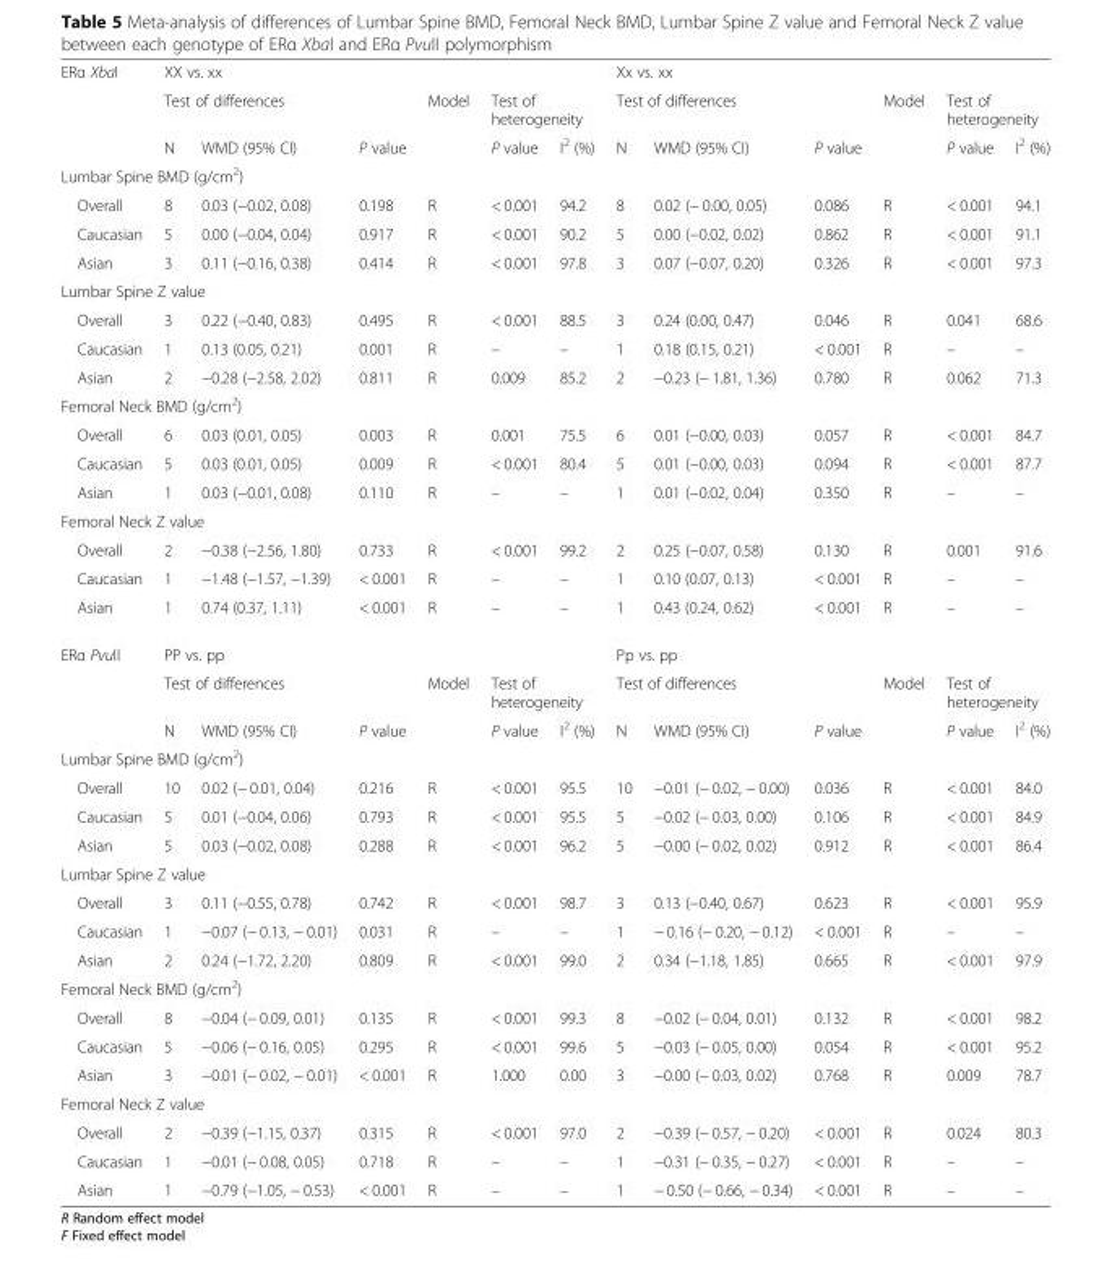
<table><tbody><tr><td rowspan="3">ERα XbaI</td><td colspan="6">XX vs. xx</td><td colspan="6">Xx vs. xx</td></tr><tr><td colspan="3">Test of differences</td><td rowspan="2">Model</td><td colspan="2">Test of heterogeneity</td><td colspan="3">Test of differences</td><td rowspan="2">Model</td><td colspan="2">Test of heterogeneity</td></tr><tr><td>N</td><td>WMD (95% CI)</td><td>P value</td><td>P value</td><td>I<sup>2</sup> (%)</td><td>N</td><td>WMD (95% CI)</td><td>P value</td><td>P value</td><td>I<sup>2</sup> (%)</td></tr><tr><td colspan="13">Lumbar Spine BMD (g/cm<sup>2</sup>)</td></tr><tr><td>Overall</td><td>8</td><td>0.03 (−0.02, 0.08)</td><td>0.198</td><td>R</td><td>&lt; 0.001</td><td>94.2</td><td>8</td><td>0.02 (− 0.00, 0.05)</td><td>0.086</td><td>R</td><td>&lt; 0.001</td><td>94.1</td></tr><tr><td>Caucasian</td><td>5</td><td>0.00 (−0.04, 0.04)</td><td>0.917</td><td>R</td><td>&lt; 0.001</td><td>90.2</td><td>5</td><td>0.00 (−0.02, 0.02)</td><td>0.862</td><td>R</td><td>&lt; 0.001</td><td>91.1</td></tr><tr><td>Asian</td><td>3</td><td>0.11 (−0.16, 0.38)</td><td>0.414</td><td>R</td><td>&lt; 0.001</td><td>97.8</td><td>3</td><td>0.07 (−0.07, 0.20)</td><td>0.326</td><td>R</td><td>&lt; 0.001</td><td>97.3</td></tr><tr><td colspan="13">Lumbar Spine Z value</td></tr><tr><td>Overall</td><td>3</td><td>0.22 (−0.40, 0.83)</td><td>0.495</td><td>R</td><td>&lt; 0.001</td><td>88.5</td><td>3</td><td>0.24 (0.00, 0.47)</td><td>0.046</td><td>R</td><td>0.041</td><td>68.6</td></tr><tr><td>Caucasian</td><td>1</td><td>0.13 (0.05, 0.21)</td><td>0.001</td><td>R</td><td>–</td><td>–</td><td>1</td><td>0.18 (0.15, 0.21)</td><td>&lt; 0.001</td><td>R</td><td>–</td><td>–</td></tr><tr><td>Asian</td><td>2</td><td>−0.28 (−2.58, 2.02)</td><td>0.811</td><td>R</td><td>0.009</td><td>85.2</td><td>2</td><td>−0.23 (− 1.81, 1.36)</td><td>0.780</td><td>R</td><td>0.062</td><td>71.3</td></tr><tr><td colspan="13">Femoral Neck BMD (g/cm<sup>2</sup>)</td></tr><tr><td>Overall</td><td>6</td><td>0.03 (0.01, 0.05)</td><td>0.003</td><td>R</td><td>0.001</td><td>75.5</td><td>6</td><td>0.01 (−0.00, 0.03)</td><td>0.057</td><td>R</td><td>&lt; 0.001</td><td>84.7</td></tr><tr><td>Caucasian</td><td>5</td><td>0.03 (0.01, 0.05)</td><td>0.009</td><td>R</td><td>&lt; 0.001</td><td>80.4</td><td>5</td><td>0.01 (−0.00, 0.03)</td><td>0.094</td><td>R</td><td>&lt; 0.001</td><td>87.7</td></tr><tr><td>Asian</td><td>1</td><td>0.03 (−0.01, 0.08)</td><td>0.110</td><td>R</td><td>–</td><td>–</td><td>1</td><td>0.01 (−0.02, 0.04)</td><td>0.350</td><td>R</td><td>–</td><td>–</td></tr><tr><td colspan="13">Femoral Neck Z value</td></tr><tr><td>Overall</td><td>2</td><td>−0.38 (−2.56, 1.80)</td><td>0.733</td><td>R</td><td>&lt; 0.001</td><td>99.2</td><td>2</td><td>0.25 (−0.07, 0.58)</td><td>0.130</td><td>R</td><td>0.001</td><td>91.6</td></tr><tr><td>Caucasian</td><td>1</td><td>−1.48 (−1.57, −1.39)</td><td>&lt; 0.001</td><td>R</td><td>–</td><td>–</td><td>1</td><td>0.10 (0.07, 0.13)</td><td>&lt; 0.001</td><td>R</td><td>–</td><td>–</td></tr><tr><td>Asian</td><td>1</td><td>0.74 (0.37, 1.11)</td><td>&lt; 0.001</td><td>R</td><td>–</td><td>–</td><td>1</td><td>0.43 (0.24, 0.62)</td><td>&lt; 0.001</td><td>R</td><td>–</td><td>–</td></tr><tr><td rowspan="3">ERα PvuII</td><td colspan="6">PP vs. pp</td><td colspan="6">Pp vs. pp</td></tr><tr><td colspan="3">Test of differences</td><td rowspan="2">Model</td><td colspan="2">Test of heterogeneity</td><td colspan="3">Test of differences</td><td rowspan="2">Model</td><td colspan="2">Test of heterogeneity</td></tr><tr><td>N</td><td>WMD (95% CI)</td><td>P value</td><td>P value</td><td>I<sup>2</sup> (%)</td><td>N</td><td>WMD (95% CI)</td><td>P value</td><td>P value</td><td>I<sup>2</sup> (%)</td></tr><tr><td colspan="13">Lumbar Spine BMD (g/cm<sup>2</sup>)</td></tr><tr><td>Overall</td><td>10</td><td>0.02 (− 0.01, 0.04)</td><td>0.216</td><td>R</td><td>&lt; 0.001</td><td>95.5</td><td>10</td><td>−0.01 (− 0.02, − 0.00)</td><td>0.036</td><td>R</td><td>&lt; 0.001</td><td>84.0</td></tr><tr><td>Caucasian</td><td>5</td><td>0.01 (−0.04, 0.06)</td><td>0.793</td><td>R</td><td>&lt; 0.001</td><td>95.5</td><td>5</td><td>−0.02 (− 0.03, 0.00)</td><td>0.106</td><td>R</td><td>&lt; 0.001</td><td>84.9</td></tr><tr><td>Asian</td><td>5</td><td>0.03 (−0.02, 0.08)</td><td>0.288</td><td>R</td><td>&lt; 0.001</td><td>96.2</td><td>5</td><td>−0.00 (− 0.02, 0.02)</td><td>0.912</td><td>R</td><td>&lt; 0.001</td><td>86.4</td></tr><tr><td colspan="13">Lumbar Spine Z value</td></tr><tr><td>Overall</td><td>3</td><td>0.11 (−0.55, 0.78)</td><td>0.742</td><td>R</td><td>&lt; 0.001</td><td>98.7</td><td>3</td><td>0.13 (−0.40, 0.67)</td><td>0.623</td><td>R</td><td>&lt; 0.001</td><td>95.9</td></tr><tr><td>Caucasian</td><td>1</td><td>−0.07 (− 0.13, − 0.01)</td><td>0.031</td><td>R</td><td>–</td><td>–</td><td>1</td><td>− 0.16 (− 0.20, − 0.12)</td><td>&lt; 0.001</td><td>R</td><td>–</td><td>–</td></tr><tr><td>Asian</td><td>2</td><td>0.24 (−1.72, 2.20)</td><td>0.809</td><td>R</td><td>&lt; 0.001</td><td>99.0</td><td>2</td><td>0.34 (−1.18, 1.85)</td><td>0.665</td><td>R</td><td>&lt; 0.001</td><td>97.9</td></tr><tr><td colspan="13">Femoral Neck BMD (g/cm<sup>2</sup>)</td></tr><tr><td>Overall</td><td>8</td><td>−0.04 (− 0.09, 0.01)</td><td>0.135</td><td>R</td><td>&lt; 0.001</td><td>99.3</td><td>8</td><td>−0.02 (− 0.04, 0.01)</td><td>0.132</td><td>R</td><td>&lt; 0.001</td><td>98.2</td></tr><tr><td>Caucasian</td><td>5</td><td>−0.06 (− 0.16, 0.05)</td><td>0.295</td><td>R</td><td>&lt; 0.001</td><td>99.6</td><td>5</td><td>−0.03 (− 0.05, 0.00)</td><td>0.054</td><td>R</td><td>&lt; 0.001</td><td>95.2</td></tr><tr><td>Asian</td><td>3</td><td>−0.01 (− 0.02, − 0.01)</td><td>&lt; 0.001</td><td>R</td><td>1.000</td><td>0.00</td><td>3</td><td>−0.00 (− 0.03, 0.02)</td><td>0.768</td><td>R</td><td>0.009</td><td>78.7</td></tr><tr><td colspan="13">Femoral Neck Z value</td></tr><tr><td>Overall</td><td>2</td><td>−0.39 (−1.15, 0.37)</td><td>0.315</td><td>R</td><td>&lt; 0.001</td><td>97.0</td><td>2</td><td>−0.39 (− 0.57, − 0.20)</td><td>&lt; 0.001</td><td>R</td><td>0.024</td><td>80.3</td></tr><tr><td>Caucasian</td><td>1</td><td>−0.01 (− 0.08, 0.05)</td><td>0.718</td><td>R</td><td>–</td><td>–</td><td>1</td><td>−0.31 (− 0.35, − 0.27)</td><td>&lt; 0.001</td><td>R</td><td>–</td><td>–</td></tr><tr><td>Asian</td><td>1</td><td>−0.79 (−1.05, − 0.53)</td><td>&lt; 0.001</td><td>R</td><td>–</td><td>–</td><td>1</td><td>− 0.50 (− 0.66, − 0.34)</td><td>&lt; 0.001</td><td>R</td><td>–</td><td>–</td></tr></tbody></table>